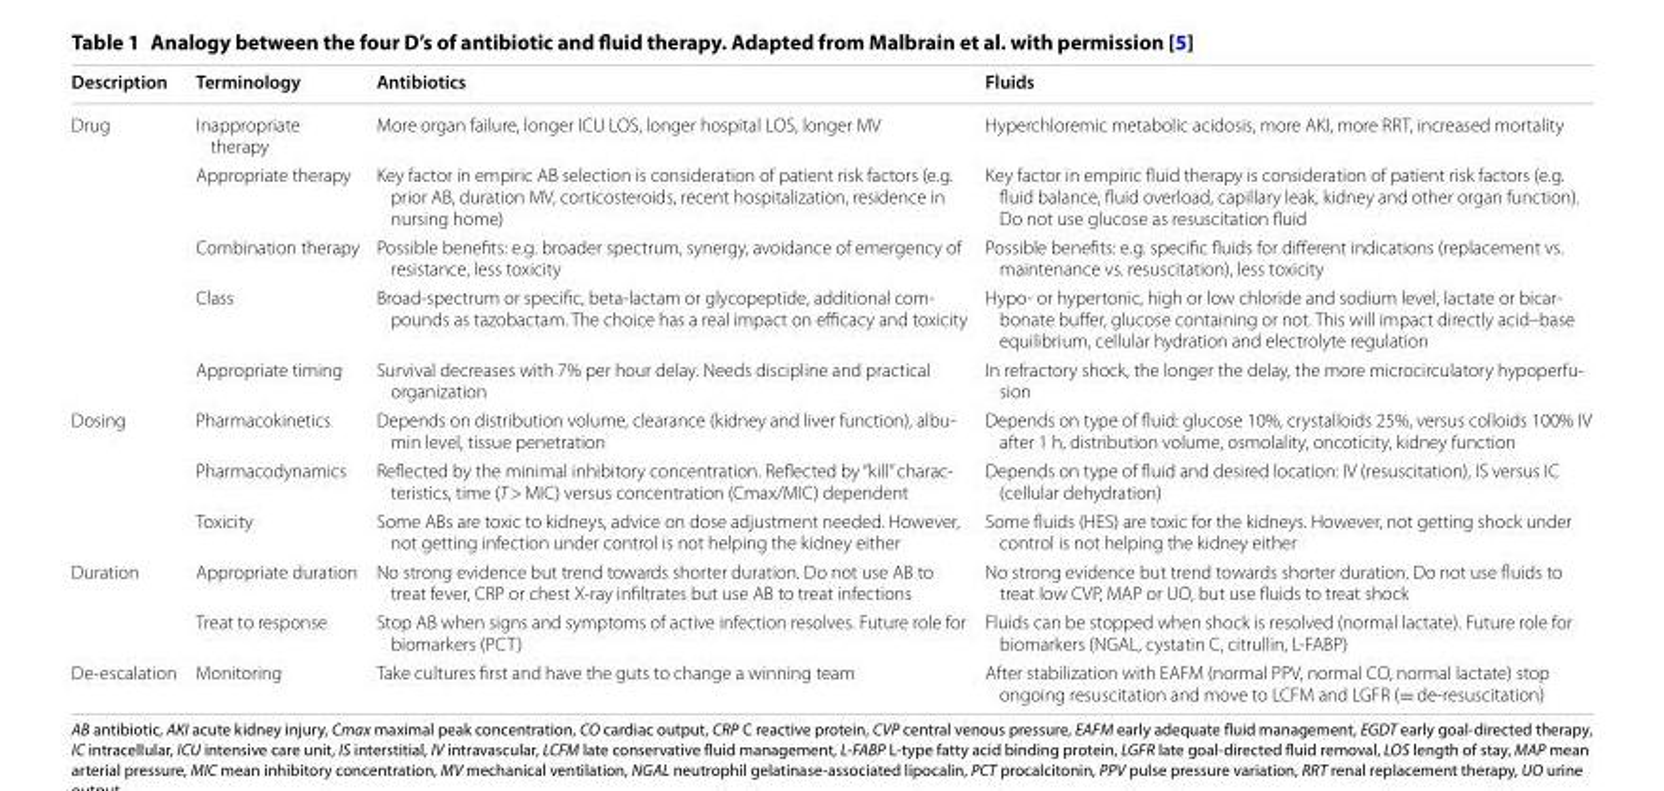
<table><thead><tr><td>Description</td><td>Terminology</td><td>Antibiotics</td><td>Fluids</td></tr></thead><tbody><tr><td rowspan="5">Drug</td><td>Inappropriate therapy</td><td>More organ failure, longer ICU LOS, longer hospital LOS, longer MV</td><td>Hyperchloremic metabolic acidosis, more AKI, more RRT, increased mortality</td></tr><tr><td>Appropriate therapy</td><td>Key factor in empiric AB selection is consideration of patient risk factors (e.g. prior AB, duration MV, corticosteroids, recent hospitalization, residence in nursing home)</td><td>Key factor in empiric fluid therapy is consideration of patient risk factors (e.g. fluid balance, fluid overload, capillary leak, kidney and other organ function). Do not use glucose as resuscitation fluid</td></tr><tr><td>Combination therapy</td><td>Possible benefits: e.g. broader spectrum, synergy, avoidance of emergency of resistance, less toxicity</td><td>Possible benefits: e.g. specific fluids for different indications (replacement vs. maintenance vs. resuscitation), less toxicity</td></tr><tr><td>Class</td><td>Broad‑spectrum or specific, beta‑lactam or glycopeptide, additional com‑ pounds as tazobactam. The choice has a real impact on efficacy and toxicity</td><td>Hypo‑ or hypertonic, high or low chloride and sodium level, lactate or bicar‑ bonate buffer, glucose containing or not. This will impact directly acid–base equilibrium, cellular hydration and electrolyte regulation</td></tr><tr><td>Appropriate timing</td><td>Survival decreases with 7% per hour delay. Needs discipline and practical organization</td><td>In refractory shock, the longer the delay, the more microcirculatory hypoperfu‑ sion</td></tr><tr><td rowspan="3">Dosing</td><td>Pharmacokinetics</td><td>Depends on distribution volume, clearance (kidney and liver function), albu‑ min level, tissue penetration</td><td>Depends on type of fluid: glucose 10%, crystalloids 25%, versus colloids 100% IV after 1 h, distribution volume, osmolality, oncoticity, kidney function</td></tr><tr><td>Pharmacodynamics</td><td>Reflected by the minimal inhibitory concentration. Reflected by “kill” charac‑ teristics, time (T &gt; MIC) versus concentration (Cmax/MIC) dependent</td><td>Depends on type of fluid and desired location: IV (resuscitation), IS versus IC (cellular dehydration)</td></tr><tr><td>Toxicity</td><td>Some ABs are toxic to kidneys, advice on dose adjustment needed. However, not getting infection under control is not helping the kidney either</td><td>Some fluids (HES) are toxic for the kidneys. However, not getting shock under control is not helping the kidney either</td></tr><tr><td rowspan="2">Duration</td><td>Appropriate duration</td><td>No strong evidence but trend towards shorter duration. Do not use AB to treat fever, CRP or chest X‑ray infiltrates but use AB to treat infections</td><td>No strong evidence but trend towards shorter duration. Do not use fluids to treat low CVP, MAP or UO, but use fluids to treat shock</td></tr><tr><td>Treat to response</td><td>Stop AB when signs and symptoms of active infection resolves. Future role for biomarkers (PCT)</td><td>Fluids can be stopped when shock is resolved (normal lactate). Future role for biomarkers (NGAL, cystatin C, citrullin, L‑FABP)</td></tr><tr><td>De‑escalation</td><td>Monitoring</td><td>Take cultures first and have the guts to change a winning team</td><td>After stabilization with EAFM (normal PPV, normal CO, normal lactate) stop ongoing resuscitation and move to LCFM and LGFR (= de‑resuscitation)</td></tr></tbody></table>